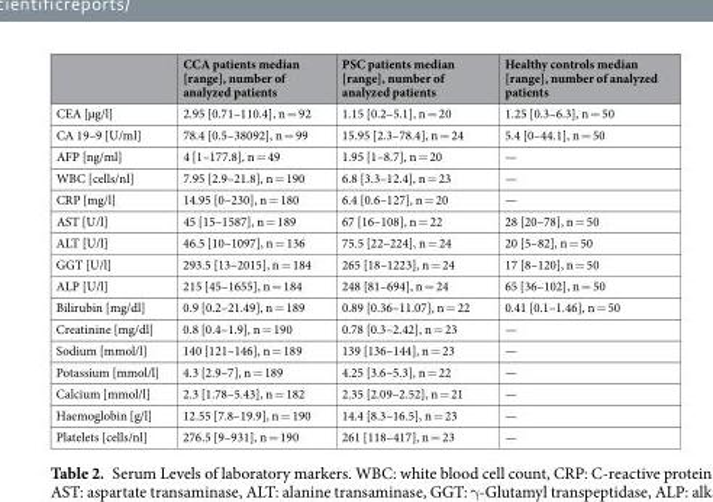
<table><thead><tr><td></td><td>CCA patients median [range], number of analyzed patients</td><td>PSC patients median [range], number of analyzed patients</td><td>Healthy controls median [range], number of analyzed patients</td></tr></thead><tbody><tr><td>CEA [µg/l]</td><td>2.95 [0.71–110.4], n = 92</td><td>1.15 [0.2–5.1], n = 20</td><td>1.25 [0.3–6.3], n = 50</td></tr><tr><td>CA 19–9 [U/ml]</td><td>78.4 [0.5–38092], n = 99</td><td>15.95 [2.3–78.4], n = 24</td><td>5.4 [0–44.1], n = 50</td></tr><tr><td>AFP [ng/ml]</td><td>4 [1–177.8], n = 49</td><td>1.95 [1–8.7], n = 20</td><td>—</td></tr><tr><td>WBC [cells/nl]</td><td>7.95 [2.9–21.8], n = 190</td><td>6.8 [3.3–12.4], n = 23</td><td>—</td></tr><tr><td>CRP [mg/l]</td><td>14.95 [0–230], n = 180</td><td>6.4 [0.6–127], n = 20</td><td>—</td></tr><tr><td>AST [U/l]</td><td>45 [15–1587], n = 189</td><td>67 [16–108], n = 22</td><td>28 [20–78], n = 50</td></tr><tr><td>ALT [U/l]</td><td>46.5 [10–1097], n = 136</td><td>75.5 [22–224], n = 24</td><td>20 [5–82], n = 50</td></tr><tr><td>GGT [U/l]</td><td>293.5 [13–2015], n = 184</td><td>265 [18–1223], n = 24</td><td>17 [8–120], n = 50</td></tr><tr><td>ALP [U/l]</td><td>215 [45–1655], n = 184</td><td>248 [81–694], n = 24</td><td>65 [36–102], n = 50</td></tr><tr><td>Bilirubin [mg/dl]</td><td>0.9 [0.2–21.49], n = 189</td><td>0.89 [0.36–11.07], n = 22</td><td>0.41 [0.1–1.46], n = 50</td></tr><tr><td>Creatinine [mg/dl]</td><td>0.8 [0.4–1.9], n = 190</td><td>0.78 [0.3–2.42], n = 23</td><td>—</td></tr><tr><td>Sodium [mmol/l]</td><td>140 [121–146], n = 189</td><td>139 [136–144], n = 23</td><td>—</td></tr><tr><td>Potassium [mmol/l]</td><td>4.3 [2.9–7], n = 189</td><td>4.25 [3.6–5.3], n = 22</td><td>—</td></tr><tr><td>Calcium [mmol/l]</td><td>2.3 [1.78–5.43], n = 182</td><td>2.35 [2.09–2.52], n = 21</td><td>—</td></tr><tr><td>Haemoglobin [g/l]</td><td>12.55 [7.8–19.9], n = 190</td><td>14.4 [8.3–16.5], n = 23</td><td>—</td></tr><tr><td>Platelets [cells/nl]</td><td>276.5 [9–931], n = 190</td><td>261 [118–417], n = 23</td><td>—</td></tr></tbody></table>